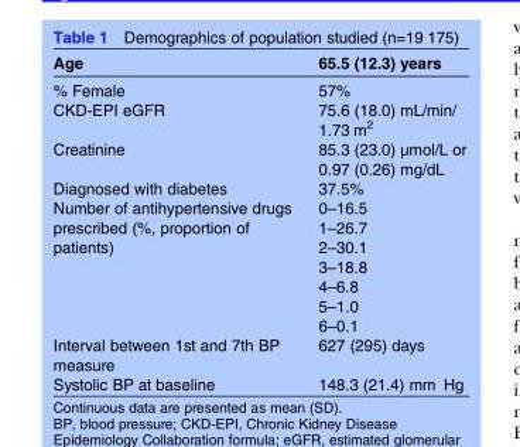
<table><thead><tr><td>Age</td><td>65.5 (12.3) years</td></tr></thead><tbody><tr><td>% Female</td><td>57%</td></tr><tr><td>CKD-EPI eGFR</td><td>75.6 (18.0) mL/min/ 1.73 m<sup>2</sup></td></tr><tr><td>Creatinine</td><td>85.3 (23.0) µmol/L or 0.97 (0.26) mg/dL</td></tr><tr><td>Diagnosed with diabetes</td><td>37.5%</td></tr><tr><td rowspan="7">Number of antihypertensive drugs prescribed (%, proportion of patients)</td><td>0–16.5</td></tr><tr><td>1–26.7</td></tr><tr><td>2–30.1</td></tr><tr><td>3–18.8</td></tr><tr><td>4–6.8</td></tr><tr><td>5–1.0</td></tr><tr><td>6–0.1</td></tr><tr><td>Interval between 1st and 7th BP measure</td><td>627 (295) days</td></tr><tr><td>Systolic BP at baseline</td><td>148.3 (21.4) mm Hg</td></tr></tbody></table>